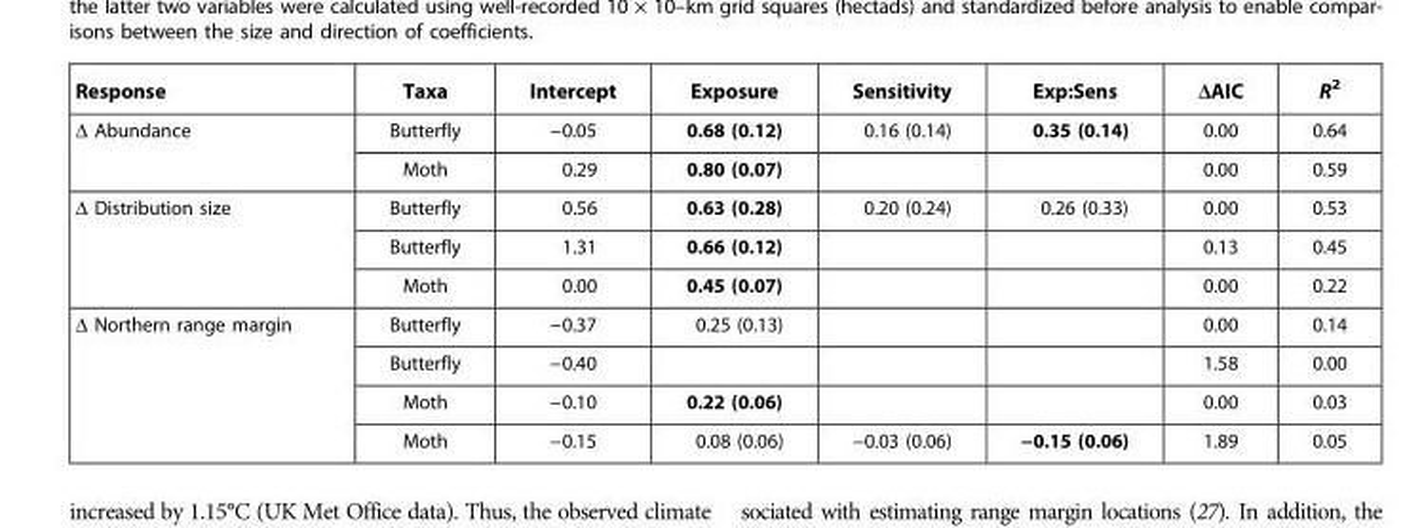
<table><thead><tr><td>Response</td><td>Taxa</td><td>Intercept</td><td>Exposure</td><td>Sensitivity</td><td>Exp:Sens</td><td>ΔAIC</td><td>R2</td></tr></thead><tbody><tr><td rowspan="2">Δ Abundance</td><td>Butterfly</td><td>−0.05</td><td>0.68 (0.12)</td><td>0.16 (0.14)</td><td>0.35 (0.14)</td><td>0.00</td><td>0.64</td></tr><tr><td>Moth</td><td>0.29</td><td>0.80 (0.07)</td><td></td><td></td><td>0.00</td><td>0.59</td></tr><tr><td rowspan="3">Δ Distribution size</td><td>Butterfly</td><td>0.56</td><td>0.63 (0.28)</td><td>0.20 (0.24)</td><td>0.26 (0.33)</td><td>0.00</td><td>0.53</td></tr><tr><td>Butterfly</td><td>1.31</td><td>0.66 (0.12)</td><td></td><td></td><td>0.13</td><td>0.45</td></tr><tr><td>Moth</td><td>0.00</td><td>0.45 (0.07)</td><td></td><td></td><td>0.00</td><td>0.22</td></tr><tr><td rowspan="4">Δ Northern range margin</td><td>Butterfly</td><td>−0.37</td><td>0.25 (0.13)</td><td></td><td></td><td>0.00</td><td>0.14</td></tr><tr><td>Butterfly</td><td>−0.40</td><td></td><td></td><td></td><td>1.58</td><td>0.00</td></tr><tr><td>Moth</td><td>−0.10</td><td>0.22 (0.06)</td><td></td><td></td><td>0.00</td><td>0.03</td></tr><tr><td>Moth</td><td>−0.15</td><td>0.08 (0.06)</td><td>−0.03 (0.06)</td><td>−0.15 (0.06)</td><td>1.89</td><td>0.05</td></tr></tbody></table>